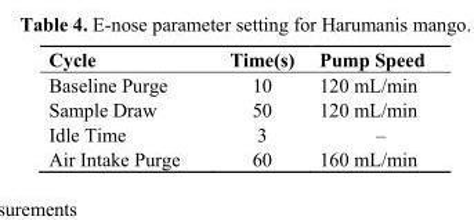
<table><thead><tr><td>Cycle</td><td>Time(s)</td><td>Pump Speed</td></tr></thead><tbody><tr><td>Baseline Purge</td><td>10</td><td>120 mL/min</td></tr><tr><td>Sample Draw</td><td>50</td><td>120 mL/min</td></tr><tr><td>Idle Time</td><td>3</td><td>–</td></tr><tr><td>Air Intake Purge</td><td>60</td><td>160 mL/min</td></tr></tbody></table>